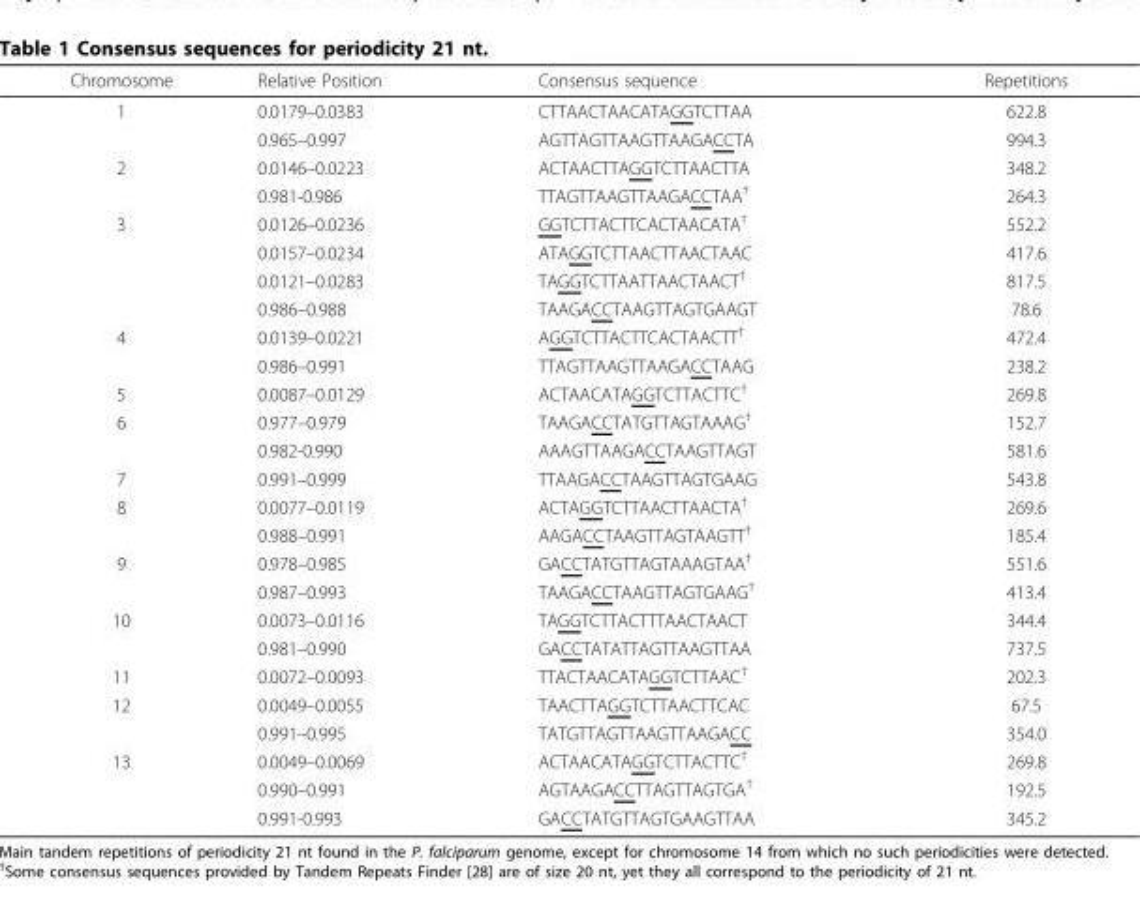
<table><thead><tr><td>Chromosome</td><td>Relative Position</td><td>Consensus sequence</td><td>Repetitions</td></tr></thead><tbody><tr><td rowspan="2">1</td><td>0.0179–0.0383</td><td>CTTAACTAACATAGGTCTTAA</td><td>622.8</td></tr><tr><td>0.965–0.997</td><td>AGTTAGTTAAGTTAAGACCTA</td><td>994.3</td></tr><tr><td rowspan="2">2</td><td>0.0146–0.0223</td><td>ACTAACTTAGGTCTTAACTTA</td><td>348.2</td></tr><tr><td>0.981-0.986</td><td>TTAGTTAAGTTAAGACCTAA<sup>†</sup></td><td>264.3</td></tr><tr><td rowspan="4">3</td><td>0.0126–0.0236</td><td>GGTCTTACTTCACTAACATA<sup>†</sup></td><td>552.2</td></tr><tr><td>0.0157–0.0234</td><td>ATAGGTCTTAACTTAACTAAC</td><td>417.6</td></tr><tr><td>0.0121–0.0283</td><td>TAGGTCTTAATTAACTAACT<sup>†</sup></td><td>817.5</td></tr><tr><td>0.986–0.988</td><td>TAAGACCTAAGTTAGTGAAGT</td><td>78.6</td></tr><tr><td rowspan="2">4</td><td>0.0139–0.0221</td><td>AGGTCTTACTTCACTAACTT<sup>†</sup></td><td>472.4</td></tr><tr><td>0.986–0.991</td><td>TTAGTTAAGTTAAGACCTAAG</td><td>238.2</td></tr><tr><td>5</td><td>0.0087–0.0129</td><td>ACTAACATAGGTCTTACTTC<sup>†</sup></td><td>269.8</td></tr><tr><td rowspan="2">6</td><td>0.977–0.979</td><td>TAAGACCTATGTTAGTAAAG<sup>†</sup></td><td>152.7</td></tr><tr><td>0.982-0.990</td><td>AAAGTTAAGACCTAAGTTAGT</td><td>581.6</td></tr><tr><td>7</td><td>0.991–0.999</td><td>TTAAGACCTAAGTTAGTGAAG</td><td>543.8</td></tr><tr><td rowspan="2">8</td><td>0.0077–0.0119</td><td>ACTAGGTCTTAACTTAACTA<sup>†</sup></td><td>269.6</td></tr><tr><td>0.988–0.991</td><td>AAGACCTAAGTTAGTAAGTT<sup>†</sup></td><td>185.4</td></tr><tr><td rowspan="2">9</td><td>0.978–0.985</td><td>GACCTATGTTAGTAAAGTAA<sup>†</sup></td><td>551.6</td></tr><tr><td>0.987–0.993</td><td>TAAGACCTAAGTTAGTGAAG<sup>†</sup></td><td>413.4</td></tr><tr><td rowspan="2">10</td><td>0.0073–0.0116</td><td>TAGGTCTTACTTTAACTAACT</td><td>344.4</td></tr><tr><td>0.981–0.990</td><td>GACCTATATTAGTTAAGTTAA</td><td>737.5</td></tr><tr><td>11</td><td>0.0072–0.0093</td><td>TTACTAACATAGGTCTTAAC<sup>†</sup></td><td>202.3</td></tr><tr><td rowspan="2">12</td><td>0.0049–0.0055</td><td>TAACTTAGGTCTTAACTTCAC</td><td>67.5</td></tr><tr><td>0.991–0.995</td><td>TATGTTAGTTAAGTTAAGACC</td><td>354.0</td></tr><tr><td rowspan="3">13</td><td>0.0049–0.0069</td><td>ACTAACATAGGTCTTACTTC<sup>†</sup></td><td>269.8</td></tr><tr><td>0.990–0.991</td><td>AGTAAGACCTTAGTTAGTGA<sup>†</sup></td><td>192.5</td></tr><tr><td>0.991-0.993</td><td>GACCTATGTTAGTGAAGTTAA</td><td>345.2</td></tr></tbody></table>